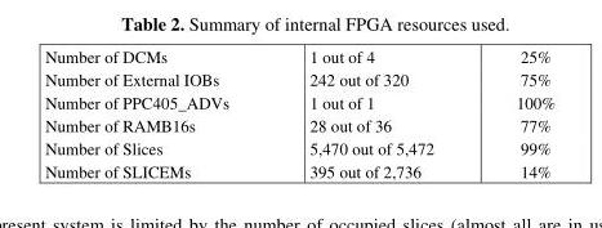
<table><tbody><tr><td>Number of DCMs</td><td>1 out of 4</td><td>25%</td></tr><tr><td>Number of External IOBs</td><td>242 out of 320</td><td>75%</td></tr><tr><td>Number of PPC405_ADVs</td><td>1 out of 1</td><td>100%</td></tr><tr><td>Number of RAMB16s</td><td>28 out of 36</td><td>77%</td></tr><tr><td>Number of Slices</td><td>5,470 out of 5,472</td><td>99%</td></tr><tr><td>Number of SLICEMs</td><td>395 out of 2,736</td><td>14%</td></tr></tbody></table>